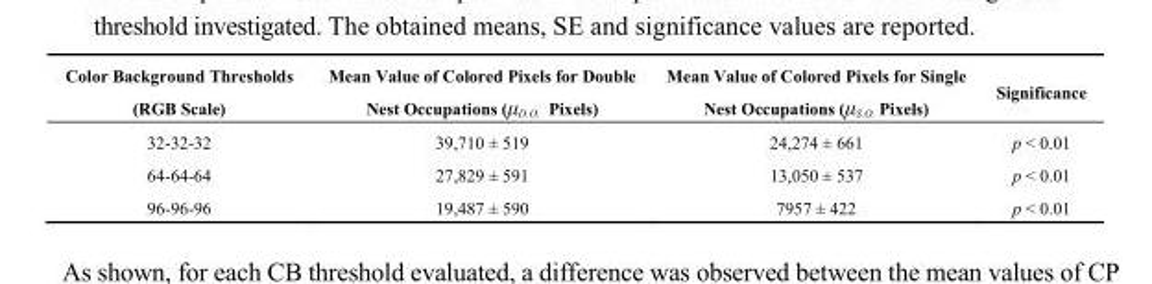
<table><thead><tr><td>Color Background Thresholds (RGB Scale)</td><td>Mean Value of Colored Pixels for Double Nest Occupations (μ<sub>D.O.</sub> Pixels)</td><td>Mean Value of Colored Pixels for Single Nest Occupations (μ<sub>S.O.</sub> Pixels)</td><td>Significance</td></tr></thead><tbody><tr><td>32-32-32</td><td>39,710 ± 519</td><td>24,274 ± 661</td><td>p &lt; 0.01</td></tr><tr><td>64-64-64</td><td>27,829 ± 591</td><td>13,050 ± 537</td><td>p &lt; 0.01</td></tr><tr><td>96-96-96</td><td>19,487 ± 590</td><td>7957 ± 422</td><td>p &lt; 0.01</td></tr></tbody></table>